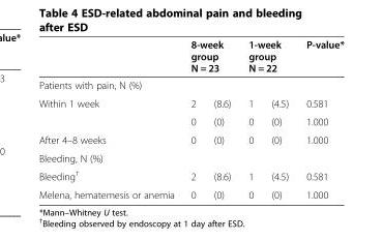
<table><thead><tr><td rowspan="2">Patients with pain, N (%)</td><td colspan="2">8-week group N = 23</td><td colspan="2">1-week group N = 22</td><td rowspan="2">P-value*</td></tr><tr><td></td><td></td><td></td><td></td></tr></thead><tbody><tr><td rowspan="2">Within 1 week</td><td>2</td><td>(8.6)</td><td>1</td><td>(4.5)</td><td>0.581</td></tr><tr><td>0</td><td>(0)</td><td>0</td><td>(0)</td><td>1.000</td></tr><tr><td>After 4–8 weeks</td><td>0</td><td>(0)</td><td>0</td><td>(0)</td><td>1.000</td></tr><tr><td colspan="6">Bleeding, N (%)</td></tr><tr><td>Bleeding<sup>†</sup></td><td>2</td><td>(8.6)</td><td>1</td><td>(4.5)</td><td>0.581</td></tr><tr><td>Melena, hematemesis or anemia</td><td>0</td><td>(0)</td><td>0</td><td>(0)</td><td>1.000</td></tr></tbody></table>